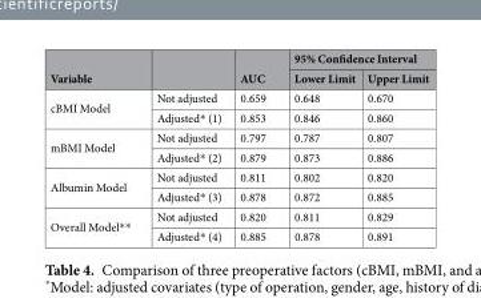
<table><thead><tr><td rowspan="2">Variable</td><td rowspan="2"></td><td rowspan="2">AUC</td><td colspan="2">95% Confidence Interval</td></tr><tr><td>Lower Limit</td><td>Upper Limit</td></tr></thead><tbody><tr><td rowspan="2">cBMI Model</td><td>Not adjusted</td><td>0.659</td><td>0.648</td><td>0.670</td></tr><tr><td>Adjusted* (1)</td><td>0.853</td><td>0.846</td><td>0.860</td></tr><tr><td rowspan="2">mBMI Model</td><td>Not adjusted</td><td>0.797</td><td>0.787</td><td>0.807</td></tr><tr><td>Adjusted* (2)</td><td>0.879</td><td>0.873</td><td>0.886</td></tr><tr><td rowspan="2">Albumin Model</td><td>Not adjusted</td><td>0.811</td><td>0.802</td><td>0.820</td></tr><tr><td>Adjusted* (3)</td><td>0.878</td><td>0.872</td><td>0.885</td></tr><tr><td rowspan="2">Overall Model**</td><td>Not adjusted</td><td>0.820</td><td>0.811</td><td>0.829</td></tr><tr><td>Adjusted* (4)</td><td>0.885</td><td>0.878</td><td>0.891</td></tr></tbody></table>